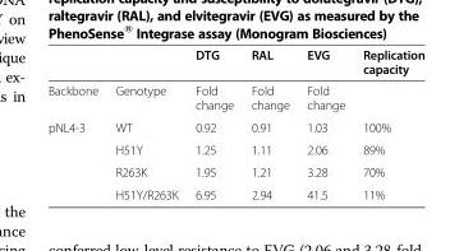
<table><thead><tr><td></td><td></td><td>DTG</td><td>RAL</td><td>EVG</td><td>Replication capacity</td></tr></thead><tbody><tr><td>Backbone</td><td>Genotype</td><td>Fold change</td><td>Fold change</td><td>Fold change</td><td></td></tr><tr><td rowspan="4">pNL4-3</td><td>WT</td><td>0.92</td><td>0.91</td><td>1.03</td><td>100%</td></tr><tr><td>H51Y</td><td>1.25</td><td>1.11</td><td>2.06</td><td>89%</td></tr><tr><td>R263K</td><td>1.95</td><td>1.21</td><td>3.28</td><td>70%</td></tr><tr><td>H51Y/R263K</td><td>6.95</td><td>2.94</td><td>41.5</td><td>11%</td></tr></tbody></table>